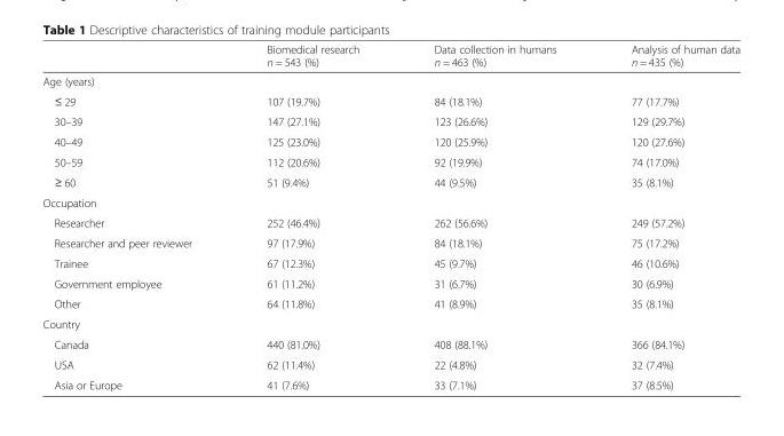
<table><thead><tr><td></td><td>Biomedical research n = 543 (%)</td><td>Data collection in humans n = 463 (%)</td><td>Analysis of human data n = 435 (%)</td></tr></thead><tbody><tr><td colspan="4">Age (years)</td></tr><tr><td>≤ 29</td><td>107 (19.7%)</td><td>84 (18.1%)</td><td>77 (17.7%)</td></tr><tr><td>30–39</td><td>147 (27.1%)</td><td>123 (26.6%)</td><td>129 (29.7%)</td></tr><tr><td>40–49</td><td>125 (23.0%)</td><td>120 (25.9%)</td><td>120 (27.6%)</td></tr><tr><td>50–59</td><td>112 (20.6%)</td><td>92 (19.9%)</td><td>74 (17.0%)</td></tr><tr><td>≥ 60</td><td>51 (9.4%)</td><td>44 (9.5%)</td><td>35 (8.1%)</td></tr><tr><td colspan="4">Occupation</td></tr><tr><td>Researcher</td><td>252 (46.4%)</td><td>262 (56.6%)</td><td>249 (57.2%)</td></tr><tr><td>Researcher and peer reviewer</td><td>97 (17.9%)</td><td>84 (18.1%)</td><td>75 (17.2%)</td></tr><tr><td>Trainee</td><td>67 (12.3%)</td><td>45 (9.7%)</td><td>46 (10.6%)</td></tr><tr><td>Government employee</td><td>61 (11.2%)</td><td>31 (6.7%)</td><td>30 (6.9%)</td></tr><tr><td>Other</td><td>64 (11.8%)</td><td>41 (8.9%)</td><td>35 (8.1%)</td></tr><tr><td colspan="4">Country</td></tr><tr><td>Canada</td><td>440 (81.0%)</td><td>408 (88.1%)</td><td>366 (84.1%)</td></tr><tr><td>USA</td><td>62 (11.4%)</td><td>22 (4.8%)</td><td>32 (7.4%)</td></tr><tr><td>Asia or Europe</td><td>41 (7.6%)</td><td>33 (7.1%)</td><td>37 (8.5%)</td></tr></tbody></table>